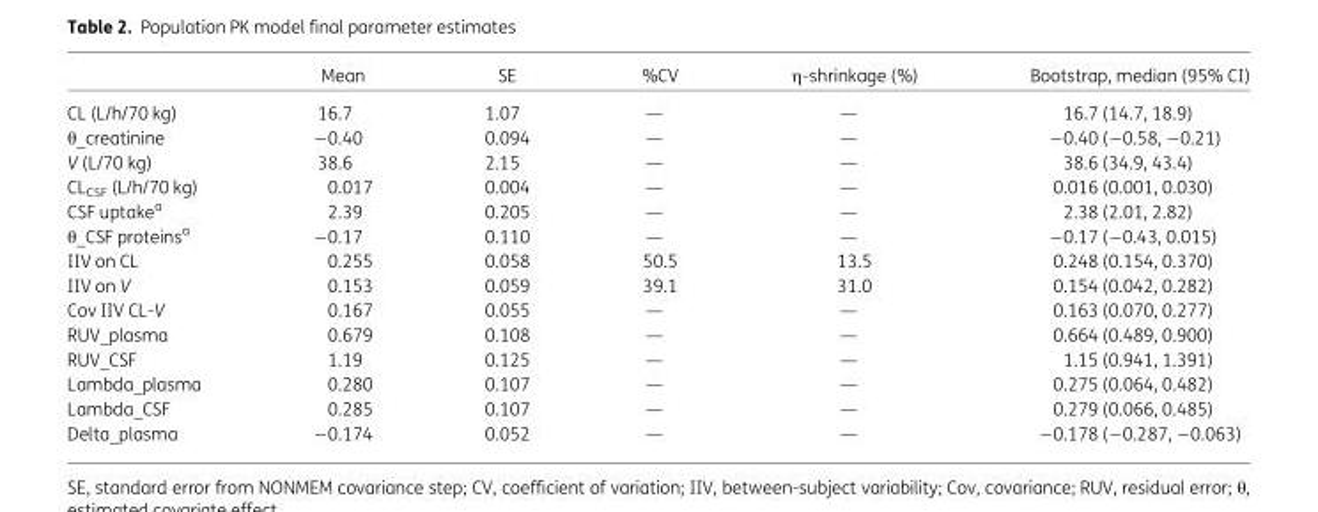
<table><thead><tr><td></td><td>Mean</td><td>SE</td><td>%CV</td><td>η-shrinkage (%)</td><td>Bootstrap, median (95% CI)</td></tr></thead><tbody><tr><td>CL (L/h/70 kg)</td><td>16.7</td><td>1.07</td><td>—</td><td>—</td><td>16.7 (14.7, 18.9)</td></tr><tr><td>θ_creatinine</td><td>−0.40</td><td>0.094</td><td>—</td><td>—</td><td>−0.40 (−0.58, −0.21)</td></tr><tr><td>V (L/70 kg)</td><td>38.6</td><td>2.15</td><td>—</td><td>—</td><td>38.6 (34.9, 43.4)</td></tr><tr><td>CL<sub>CSF</sub> (L/h/70 kg)</td><td>0.017</td><td>0.004</td><td>—</td><td>—</td><td>0.016 (0.001, 0.030)</td></tr><tr><td>CSF uptake<sup>a</sup></td><td>2.39</td><td>0.205</td><td>—</td><td>—</td><td>2.38 (2.01, 2.82)</td></tr><tr><td>θ_CSF proteins<sup>a</sup></td><td>−0.17</td><td>0.110</td><td>—</td><td>—</td><td>−0.17 (−0.43, 0.015)</td></tr><tr><td>IIV on CL</td><td>0.255</td><td>0.058</td><td>50.5</td><td>13.5</td><td>0.248 (0.154, 0.370)</td></tr><tr><td>IIV on V</td><td>0.153</td><td>0.059</td><td>39.1</td><td>31.0</td><td>0.154 (0.042, 0.282)</td></tr><tr><td>Cov IIV CL-V</td><td>0.167</td><td>0.055</td><td>—</td><td>—</td><td>0.163 (0.070, 0.277)</td></tr><tr><td>RUV_plasma</td><td>0.679</td><td>0.108</td><td>—</td><td>—</td><td>0.664 (0.489, 0.900)</td></tr><tr><td>RUV_CSF</td><td>1.19</td><td>0.125</td><td>—</td><td>—</td><td>1.15 (0.941, 1.391)</td></tr><tr><td>Lambda_plasma</td><td>0.280</td><td>0.107</td><td>—</td><td>—</td><td>0.275 (0.064, 0.482)</td></tr><tr><td>Lambda_CSF</td><td>0.285</td><td>0.107</td><td>—</td><td>—</td><td>0.279 (0.066, 0.485)</td></tr><tr><td>Delta_plasma</td><td>−0.174</td><td>0.052</td><td>—</td><td>—</td><td>−0.178 (−0.287, −0.063)</td></tr></tbody></table>